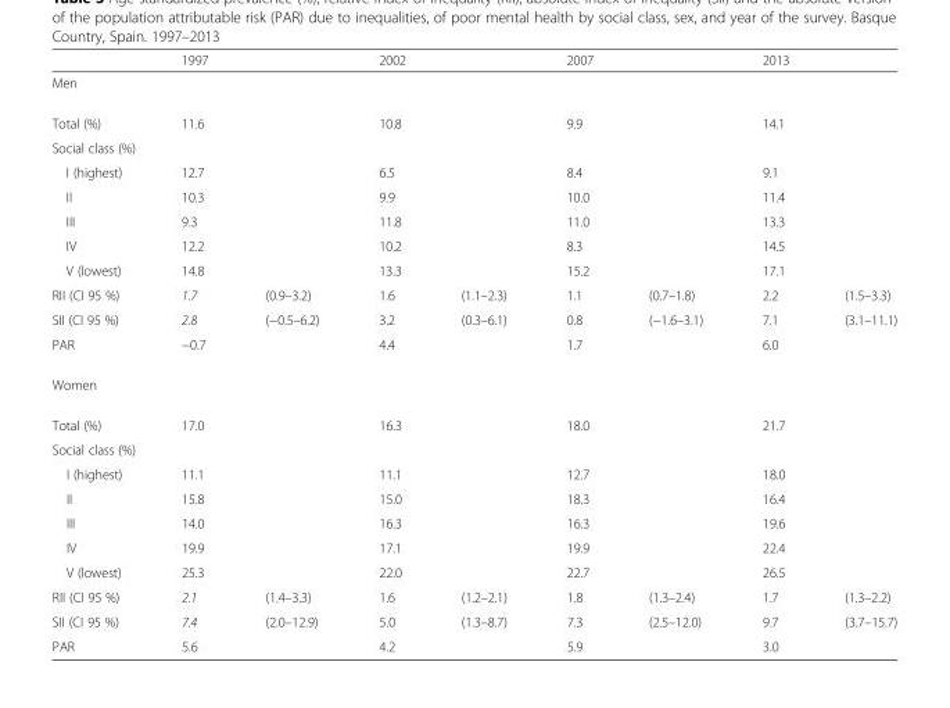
<table><thead><tr><td></td><td colspan="2">1997</td><td colspan="2">2002</td><td colspan="2">2007</td><td colspan="2">2013</td></tr><tr><td colspan="9">Men</td></tr><tr><td>Total (%)</td><td>11.6</td><td></td><td>10.8</td><td></td><td>9.9</td><td></td><td>14.1</td><td></td></tr></thead><tbody><tr><td colspan="9">Social class (%)</td></tr><tr><td>I (highest)</td><td>12.7</td><td></td><td>6.5</td><td></td><td>8.4</td><td></td><td>9.1</td><td></td></tr><tr><td>II</td><td>10.3</td><td></td><td>9.9</td><td></td><td>10.0</td><td></td><td>11.4</td><td></td></tr><tr><td>III</td><td>9.3</td><td></td><td>11.8</td><td></td><td>11.0</td><td></td><td>13.3</td><td></td></tr><tr><td>IV</td><td>12.2</td><td></td><td>10.2</td><td></td><td>8.3</td><td></td><td>14.5</td><td></td></tr><tr><td>V (lowest)</td><td>14.8</td><td></td><td>13.3</td><td></td><td>15.2</td><td></td><td>17.1</td><td></td></tr><tr><td>RII (CI 95 %)</td><td>1.7</td><td>(0.9–3.2)</td><td>1.6</td><td>(1.1–2.3)</td><td>1.1</td><td>(0.7–1.8)</td><td>2.2</td><td>(1.5–3.3)</td></tr><tr><td>SII (CI 95 %)</td><td>2.8</td><td>(−0.5–6.2)</td><td>3.2</td><td>(0.3–6.1)</td><td>0.8</td><td>(−1.6–3.1)</td><td>7.1</td><td>(3.1–11.1)</td></tr><tr><td>PAR</td><td>−0.7</td><td></td><td>4.4</td><td></td><td>1.7</td><td></td><td>6.0</td><td></td></tr><tr><td colspan="9">Women</td></tr><tr><td>Total (%)</td><td>17.0</td><td></td><td>16.3</td><td></td><td>18.0</td><td></td><td>21.7</td><td></td></tr><tr><td colspan="9">Social class (%)</td></tr><tr><td>I (highest)</td><td>11.1</td><td></td><td>11.1</td><td></td><td>12.7</td><td></td><td>18.0</td><td></td></tr><tr><td>II</td><td>15.8</td><td></td><td>15.0</td><td></td><td>18.3</td><td></td><td>16.4</td><td></td></tr><tr><td>III</td><td>14.0</td><td></td><td>16.3</td><td></td><td>16.3</td><td></td><td>19.6</td><td></td></tr><tr><td>IV</td><td>19.9</td><td></td><td>17.1</td><td></td><td>19.9</td><td></td><td>22.4</td><td></td></tr><tr><td>V (lowest)</td><td>25.3</td><td></td><td>22.0</td><td></td><td>22.7</td><td></td><td>26.5</td><td></td></tr><tr><td>RII (CI 95 %)</td><td>2.1</td><td>(1.4–3.3)</td><td>1.6</td><td>(1.2–2.1)</td><td>1.8</td><td>(1.3–2.4)</td><td>1.7</td><td>(1.3–2.2)</td></tr><tr><td>SII (CI 95 %)</td><td>7.4</td><td>(2.0–12.9)</td><td>5.0</td><td>(1.3–8.7)</td><td>7.3</td><td>(2.5–12.0)</td><td>9.7</td><td>(3.7–15.7)</td></tr><tr><td>PAR</td><td>5.6</td><td></td><td>4.2</td><td></td><td>5.9</td><td></td><td>3.0</td><td></td></tr></tbody></table>